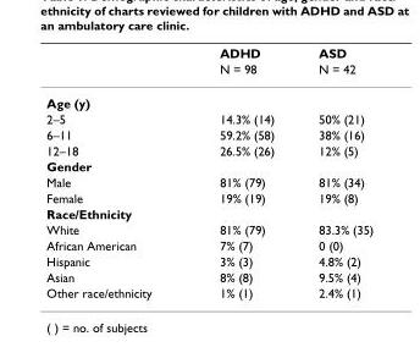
<table><thead><tr><td rowspan="2"></td><td rowspan="2">ADHD N = 98</td><td rowspan="2">ASD N = 42</td></tr><tr></tr></thead><tbody><tr><td colspan="3">Age (y)</td></tr><tr><td>2–5</td><td>14.3% (14)</td><td>50% (21)</td></tr><tr><td>6–11</td><td>59.2% (58)</td><td>38% (16)</td></tr><tr><td>12–18</td><td>26.5% (26)</td><td>12% (5)</td></tr><tr><td colspan="3">Gender</td></tr><tr><td>Male</td><td>81% (79)</td><td>81% (34)</td></tr><tr><td>Female</td><td>19% (19)</td><td>19% (8)</td></tr><tr><td colspan="3">Race/Ethnicity</td></tr><tr><td>White</td><td>81% (79)</td><td>83.3% (35)</td></tr><tr><td>African American</td><td>7% (7)</td><td>0 (0)</td></tr><tr><td>Hispanic</td><td>3% (3)</td><td>4.8% (2)</td></tr><tr><td>Asian</td><td>8% (8)</td><td>9.5% (4)</td></tr><tr><td>Other race/ethnicity</td><td>1% (1)</td><td>2.4% (1)</td></tr></tbody></table>